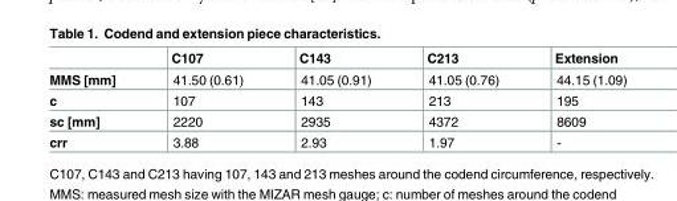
<table><thead><tr><td></td><td>C107</td><td>C143</td><td>C213</td><td>Extension</td></tr></thead><tbody><tr><td>MMS [mm]</td><td>41.50 (0.61)</td><td>41.05 (0.91)</td><td>41.05 (0.76)</td><td>44.15 (1.09)</td></tr><tr><td>c</td><td>107</td><td>143</td><td>213</td><td>195</td></tr><tr><td>sc [mm]</td><td>2220</td><td>2935</td><td>4372</td><td>8609</td></tr><tr><td>crr</td><td>3.88</td><td>2.93</td><td>1.97</td><td>-</td></tr></tbody></table>